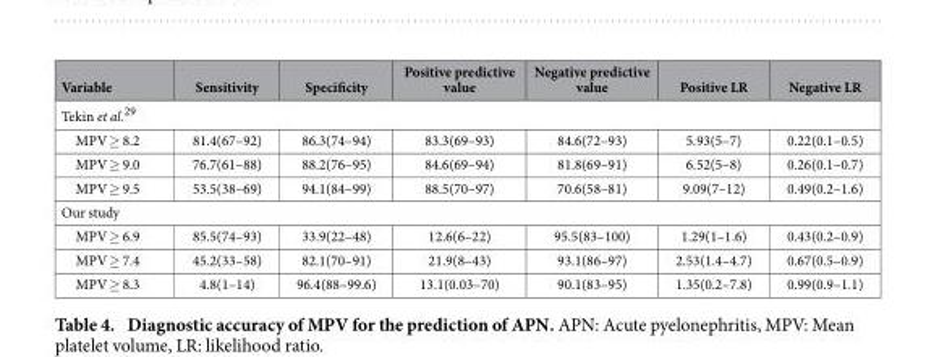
<table><thead><tr><td>Variable</td><td>Sensitivity</td><td>Specificity</td><td>Positive predictive value</td><td>Negative predictive value</td><td>Positive LR</td><td>Negative LR</td></tr></thead><tbody><tr><td colspan="7">Tekin et al.<sup>29</sup></td></tr><tr><td>MPV ≥ 8.2</td><td>81.4(67–92)</td><td>86.3(74–94)</td><td>83.3(69–93)</td><td>84.6(72–93)</td><td>5.93(5–7)</td><td>0.22(0.1–0.5)</td></tr><tr><td>MPV ≥ 9.0</td><td>76.7(61–88)</td><td>88.2(76–95)</td><td>84.6(69–94)</td><td>81.8(69–91)</td><td>6.52(5–8)</td><td>0.26(0.1–0.7)</td></tr><tr><td>MPV ≥ 9.5</td><td>53.5(38–69)</td><td>94.1(84–99)</td><td>88.5(70–97)</td><td>70.6(58–81)</td><td>9.09(7–12)</td><td>0.49(0.2–1.6)</td></tr><tr><td colspan="7">Our study</td></tr><tr><td>MPV ≥ 6.9</td><td>85.5(74–93)</td><td>33.9(22–48)</td><td>12.6(6–22)</td><td>95.5(83–100)</td><td>1.29(1–1.6)</td><td>0.43(0.2–0.9)</td></tr><tr><td>MPV ≥ 7.4</td><td>45.2(33–58)</td><td>82.1(70–91)</td><td>21.9(8–43)</td><td>93.1(86–97)</td><td>2.53(1.4–4.7)</td><td>0.67(0.5–0.9)</td></tr><tr><td>MPV ≥ 8.3</td><td>4.8(1–14)</td><td>96.4(88–99.6)</td><td>13.1(0.03–70)</td><td>90.1(83–95)</td><td>1.35(0.2–7.8)</td><td>0.99(0.9–1.1)</td></tr></tbody></table>